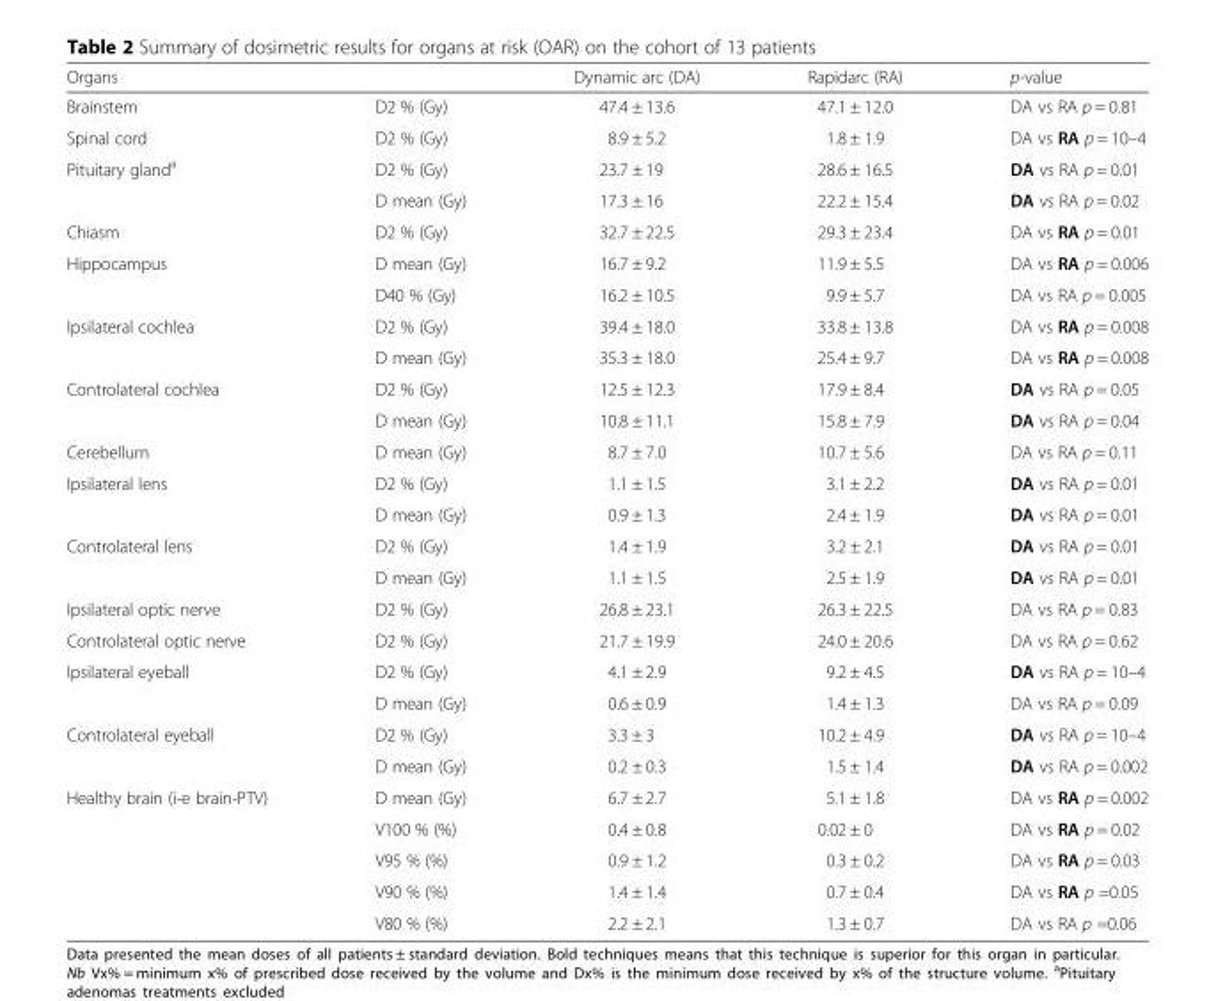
<table><thead><tr><td>Organs</td><td></td><td>Dynamic arc (DA)</td><td>Rapidarc (RA)</td><td>p-value</td></tr></thead><tbody><tr><td>Brainstem</td><td>D2 % (Gy)</td><td>47.4 ± 13.6</td><td>47.1 ± 12.0</td><td>DA vs RA p = 0.81</td></tr><tr><td>Spinal cord</td><td>D2 % (Gy)</td><td>8.9 ± 5.2</td><td>1.8 ± 1.9</td><td>DA vs RA p = 10–4</td></tr><tr><td rowspan="2">Pituitary gland<sup>a</sup></td><td>D2 % (Gy)</td><td>23.7 ± 19</td><td>28.6 ± 16.5</td><td>DA vs RA p = 0.01</td></tr><tr><td>D mean (Gy)</td><td>17.3 ± 16</td><td>22.2 ± 15.4</td><td>DA vs RA p = 0.02</td></tr><tr><td>Chiasm</td><td>D2 % (Gy)</td><td>32.7 ± 22.5</td><td>29.3 ± 23.4</td><td>DA vs RA p = 0.01</td></tr><tr><td rowspan="2">Hippocampus</td><td>D mean (Gy)</td><td>16.7 ± 9.2</td><td>11.9 ± 5.5</td><td>DA vs RA p = 0.006</td></tr><tr><td>D40 % (Gy)</td><td>16.2 ± 10.5</td><td>9.9 ± 5.7</td><td>DA vs RA p = 0.005</td></tr><tr><td rowspan="2">Ipsilateral cochlea</td><td>D2 % (Gy)</td><td>39.4 ± 18.0</td><td>33.8 ± 13.8</td><td>DA vs RA p = 0.008</td></tr><tr><td>D mean (Gy)</td><td>35.3 ± 18.0</td><td>25.4 ± 9.7</td><td>DA vs RA p = 0.008</td></tr><tr><td rowspan="2">Controlateral cochlea</td><td>D2 % (Gy)</td><td>12.5 ± 12.3</td><td>17.9 ± 8.4</td><td>DA vs RA p = 0.05</td></tr><tr><td>D mean (Gy)</td><td>10.8 ± 11.1</td><td>15.8 ± 7.9</td><td>DA vs RA p = 0.04</td></tr><tr><td>Cerebellum</td><td>D mean (Gy)</td><td>8.7 ± 7.0</td><td>10.7 ± 5.6</td><td>DA vs RA p = 0.11</td></tr><tr><td rowspan="2">Ipsilateral lens</td><td>D2 % (Gy)</td><td>1.1 ± 1.5</td><td>3.1 ± 2.2</td><td>DA vs RA p = 0.01</td></tr><tr><td>D mean (Gy)</td><td>0.9 ± 1.3</td><td>2.4 ± 1.9</td><td>DA vs RA p = 0.01</td></tr><tr><td rowspan="2">Controlateral lens</td><td>D2 % (Gy)</td><td>1.4 ± 1.9</td><td>3.2 ± 2.1</td><td>DA vs RA p = 0.01</td></tr><tr><td>D mean (Gy)</td><td>1.1 ± 1.5</td><td>2.5 ± 1.9</td><td>DA vs RA p = 0.01</td></tr><tr><td>Ipsilateral optic nerve</td><td>D2 % (Gy)</td><td>26.8 ± 23.1</td><td>26.3 ± 22.5</td><td>DA vs RA p = 0.83</td></tr><tr><td>Controlateral optic nerve</td><td>D2 % (Gy)</td><td>21.7 ± 19.9</td><td>24.0 ± 20.6</td><td>DA vs RA p = 0.62</td></tr><tr><td rowspan="2">Ipsilateral eyeball</td><td>D2 % (Gy)</td><td>4.1 ± 2.9</td><td>9.2 ± 4.5</td><td>DA vs RA p = 10–4</td></tr><tr><td>D mean (Gy)</td><td>0.6 ± 0.9</td><td>1.4 ± 1.3</td><td>DA vs RA p = 0.09</td></tr><tr><td rowspan="2">Controlateral eyeball</td><td>D2 % (Gy)</td><td>3.3 ± 3</td><td>10.2 ± 4.9</td><td>DA vs RA p = 10–4</td></tr><tr><td>D mean (Gy)</td><td>0.2 ± 0.3</td><td>1.5 ± 1.4</td><td>DA vs RA p = 0.002</td></tr><tr><td rowspan="5">Healthy brain (i-e brain-PTV)</td><td>D mean (Gy)</td><td>6.7 ± 2.7</td><td>5.1 ± 1.8</td><td>DA vs RA p = 0.002</td></tr><tr><td>V100 % (%)</td><td>0.4 ± 0.8</td><td>0.02 ± 0</td><td>DA vs RA p = 0.02</td></tr><tr><td>V95 % (%)</td><td>0.9 ± 1.2</td><td>0.3 ± 0.2</td><td>DA vs RA p = 0.03</td></tr><tr><td>V90 % (%)</td><td>1.4 ± 1.4</td><td>0.7 ± 0.4</td><td>DA vs RA p =0.05</td></tr><tr><td>V80 % (%)</td><td>2.2 ± 2.1</td><td>1.3 ± 0.7</td><td>DA vs RA p =0.06</td></tr></tbody></table>